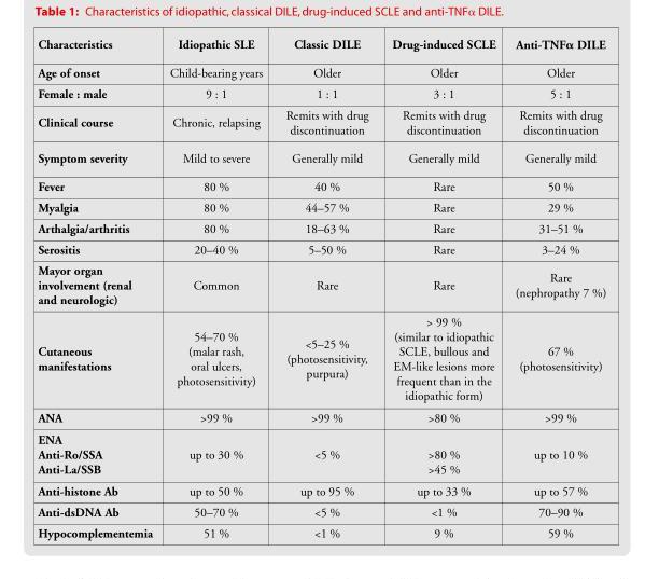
<table><thead><tr><td>Characteristics</td><td>Idiopathic SLE</td><td>Classic DILE</td><td>Drug-induced SCLE</td><td>Anti-TNFα DILE</td></tr></thead><tbody><tr><td>Age of onset</td><td>Child-bearing years</td><td>Older</td><td>Older</td><td>Older</td></tr><tr><td>Female : male</td><td>9 : 1</td><td>1 : 1</td><td>3 : 1</td><td>5 : 1</td></tr><tr><td>Clinical course</td><td>Chronic, relapsing</td><td>Remits with drug discontinuation</td><td>Remits with drug discontinuation</td><td>Remits with drug discontinuation</td></tr><tr><td>Symptom severity</td><td>Mild to severe</td><td>Generally mild</td><td>Generally mild</td><td>Generally mild</td></tr><tr><td>Fever</td><td>80 %</td><td>40 %</td><td>Rare</td><td>50 %</td></tr><tr><td>Myalgia</td><td>80 %</td><td>44–57 %</td><td>Rare</td><td>29 %</td></tr><tr><td>Arthalgia/arthritis</td><td>80 %</td><td>18–63 %</td><td>Rare</td><td>31–51 %</td></tr><tr><td>Serositis</td><td>20–40 %</td><td>5–50 %</td><td>Rare</td><td>3–24 %</td></tr><tr><td>Mayor organ involvement (renal and neurologic)</td><td>Common</td><td>Rare</td><td>Rare</td><td>Rare (nephropathy 7 %)</td></tr><tr><td>Cutaneous manifestations</td><td>54–70 % (malar rash, oral ulcers, photosensitivity)</td><td>&lt;5–25 % (photosensitivity, purpura)</td><td>&gt; 99 % (similar to idiopathic SCLE, bullous and EM-like lesions more frequent than in the idiopathic form)</td><td>67 % (photosensitivity)</td></tr><tr><td>ANA</td><td>&gt;99 %</td><td>&gt;99 %</td><td>&gt;80 %</td><td>&gt;99 %</td></tr><tr><td>ENA</td><td></td><td></td><td></td><td></td></tr><tr><td>Anti-Ro/SSA</td><td>up to 30 %</td><td>&lt;5 %</td><td>&gt;80 %</td><td>up to 10 %</td></tr><tr><td>Anti-La/SSB</td><td></td><td></td><td>&gt;45 %</td><td></td></tr><tr><td>Anti-histone Ab</td><td>up to 50 %</td><td>up to 95 %</td><td>up to 33 %</td><td>up to 57 %</td></tr><tr><td>Anti-dsDNA Ab</td><td>50–70 %</td><td>&lt;5 %</td><td>&lt;1 %</td><td>70–90 %</td></tr><tr><td>Hypocomplementemia</td><td>51 %</td><td>&lt;1 %</td><td>9 %</td><td>59 %</td></tr></tbody></table>